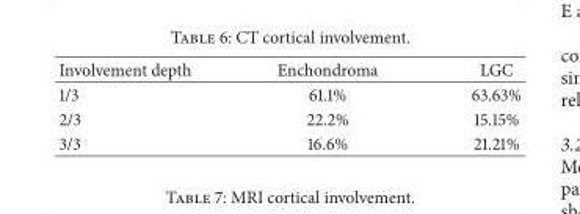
<table><thead><tr><td>Involvement depth</td><td>Enchondroma</td><td>LGC</td></tr></thead><tbody><tr><td>1/3</td><td>61.1%</td><td>63.63%</td></tr><tr><td>2/3</td><td>22.2%</td><td>15.15%</td></tr><tr><td>3/3</td><td>16.6%</td><td>21.21%</td></tr></tbody></table>